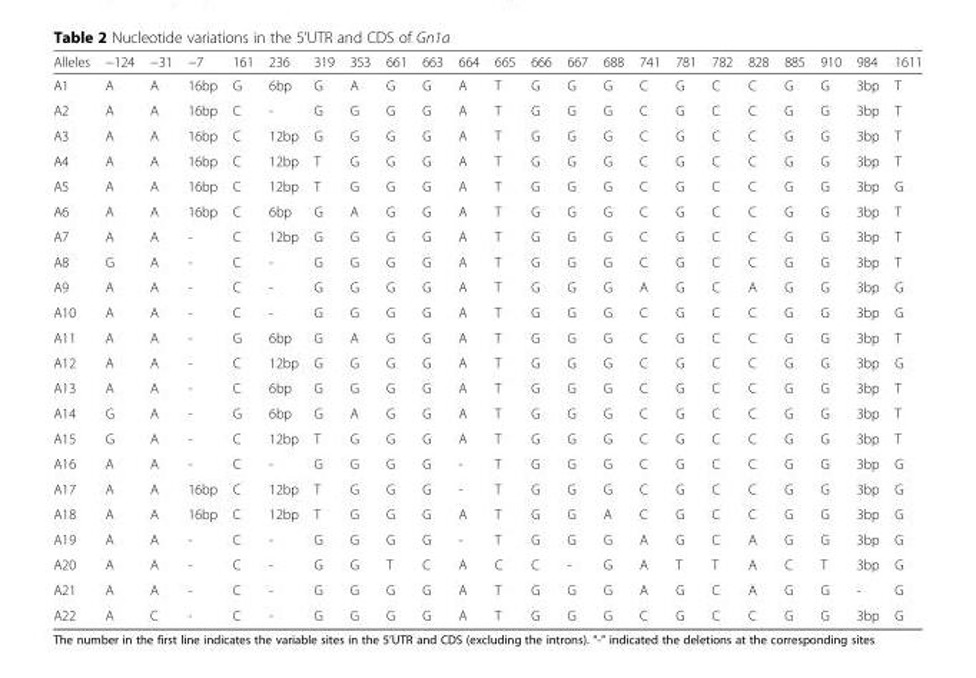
<table><thead><tr><td>Alleles</td><td>−124</td><td>−31</td><td>−7</td><td>161</td><td>236</td><td>319</td><td>353</td><td>661</td><td>663</td><td>664</td><td>665</td><td>666</td><td>667</td><td>688</td><td>741</td><td>781</td><td>782</td><td>828</td><td>885</td><td>910</td><td>984</td><td>1611</td></tr></thead><tbody><tr><td>A1</td><td>A</td><td>A</td><td>16bp</td><td>G</td><td>6bp</td><td>G</td><td>A</td><td>G</td><td>G</td><td>A</td><td>T</td><td>G</td><td>G</td><td>G</td><td>C</td><td>G</td><td>C</td><td>C</td><td>G</td><td>G</td><td>3bp</td><td>T</td></tr><tr><td>A2</td><td>A</td><td>A</td><td>16bp</td><td>C</td><td>-</td><td>G</td><td>G</td><td>G</td><td>G</td><td>A</td><td>T</td><td>G</td><td>G</td><td>G</td><td>C</td><td>G</td><td>C</td><td>C</td><td>G</td><td>G</td><td>3bp</td><td>T</td></tr><tr><td>A3</td><td>A</td><td>A</td><td>16bp</td><td>C</td><td>12bp</td><td>G</td><td>G</td><td>G</td><td>G</td><td>A</td><td>T</td><td>G</td><td>G</td><td>G</td><td>C</td><td>G</td><td>C</td><td>C</td><td>G</td><td>G</td><td>3bp</td><td>T</td></tr><tr><td>A4</td><td>A</td><td>A</td><td>16bp</td><td>C</td><td>12bp</td><td>T</td><td>G</td><td>G</td><td>G</td><td>A</td><td>T</td><td>G</td><td>G</td><td>G</td><td>C</td><td>G</td><td>C</td><td>C</td><td>G</td><td>G</td><td>3bp</td><td>T</td></tr><tr><td>A5</td><td>A</td><td>A</td><td>16bp</td><td>C</td><td>12bp</td><td>T</td><td>G</td><td>G</td><td>G</td><td>A</td><td>T</td><td>G</td><td>G</td><td>G</td><td>C</td><td>G</td><td>C</td><td>C</td><td>G</td><td>G</td><td>3bp</td><td>G</td></tr><tr><td>A6</td><td>A</td><td>A</td><td>16bp</td><td>C</td><td>6bp</td><td>G</td><td>A</td><td>G</td><td>G</td><td>A</td><td>T</td><td>G</td><td>G</td><td>G</td><td>C</td><td>G</td><td>C</td><td>C</td><td>G</td><td>G</td><td>3bp</td><td>T</td></tr><tr><td>A7</td><td>A</td><td>A</td><td>-</td><td>C</td><td>12bp</td><td>G</td><td>G</td><td>G</td><td>G</td><td>A</td><td>T</td><td>G</td><td>G</td><td>G</td><td>C</td><td>G</td><td>C</td><td>C</td><td>G</td><td>G</td><td>3bp</td><td>T</td></tr><tr><td>A8</td><td>G</td><td>A</td><td>-</td><td>C</td><td>-</td><td>G</td><td>G</td><td>G</td><td>G</td><td>A</td><td>T</td><td>G</td><td>G</td><td>G</td><td>C</td><td>G</td><td>C</td><td>C</td><td>G</td><td>G</td><td>3bp</td><td>T</td></tr><tr><td>A9</td><td>A</td><td>A</td><td>-</td><td>C</td><td>-</td><td>G</td><td>G</td><td>G</td><td>G</td><td>A</td><td>T</td><td>G</td><td>G</td><td>G</td><td>A</td><td>G</td><td>C</td><td>A</td><td>G</td><td>G</td><td>3bp</td><td>G</td></tr><tr><td>A10</td><td>A</td><td>A</td><td>-</td><td>C</td><td>-</td><td>G</td><td>G</td><td>G</td><td>G</td><td>A</td><td>T</td><td>G</td><td>G</td><td>G</td><td>C</td><td>G</td><td>C</td><td>C</td><td>G</td><td>G</td><td>3bp</td><td>G</td></tr><tr><td>A11</td><td>A</td><td>A</td><td>-</td><td>G</td><td>6bp</td><td>G</td><td>A</td><td>G</td><td>G</td><td>A</td><td>T</td><td>G</td><td>G</td><td>G</td><td>C</td><td>G</td><td>C</td><td>C</td><td>G</td><td>G</td><td>3bp</td><td>T</td></tr><tr><td>A12</td><td>A</td><td>A</td><td>-</td><td>C</td><td>12bp</td><td>G</td><td>G</td><td>G</td><td>G</td><td>A</td><td>T</td><td>G</td><td>G</td><td>G</td><td>C</td><td>G</td><td>C</td><td>C</td><td>G</td><td>G</td><td>3bp</td><td>G</td></tr><tr><td>A13</td><td>A</td><td>A</td><td>-</td><td>C</td><td>6bp</td><td>G</td><td>G</td><td>G</td><td>G</td><td>A</td><td>T</td><td>G</td><td>G</td><td>G</td><td>C</td><td>G</td><td>C</td><td>C</td><td>G</td><td>G</td><td>3bp</td><td>T</td></tr><tr><td>A14</td><td>G</td><td>A</td><td>-</td><td>G</td><td>6bp</td><td>G</td><td>A</td><td>G</td><td>G</td><td>A</td><td>T</td><td>G</td><td>G</td><td>G</td><td>C</td><td>G</td><td>C</td><td>C</td><td>G</td><td>G</td><td>3bp</td><td>T</td></tr><tr><td>A15</td><td>G</td><td>A</td><td>-</td><td>C</td><td>12bp</td><td>T</td><td>G</td><td>G</td><td>G</td><td>A</td><td>T</td><td>G</td><td>G</td><td>G</td><td>C</td><td>G</td><td>C</td><td>C</td><td>G</td><td>G</td><td>3bp</td><td>T</td></tr><tr><td>A16</td><td>A</td><td>A</td><td>-</td><td>C</td><td>-</td><td>G</td><td>G</td><td>G</td><td>G</td><td>-</td><td>T</td><td>G</td><td>G</td><td>G</td><td>C</td><td>G</td><td>C</td><td>C</td><td>G</td><td>G</td><td>3bp</td><td>G</td></tr><tr><td>A17</td><td>A</td><td>A</td><td>16bp</td><td>C</td><td>12bp</td><td>T</td><td>G</td><td>G</td><td>G</td><td>-</td><td>T</td><td>G</td><td>G</td><td>G</td><td>C</td><td>G</td><td>C</td><td>C</td><td>G</td><td>G</td><td>3bp</td><td>G</td></tr><tr><td>A18</td><td>A</td><td>A</td><td>16bp</td><td>C</td><td>12bp</td><td>T</td><td>G</td><td>G</td><td>G</td><td>A</td><td>T</td><td>G</td><td>G</td><td>A</td><td>C</td><td>G</td><td>C</td><td>C</td><td>G</td><td>G</td><td>3bp</td><td>G</td></tr><tr><td>A19</td><td>A</td><td>A</td><td>-</td><td>C</td><td>-</td><td>G</td><td>G</td><td>G</td><td>G</td><td>-</td><td>T</td><td>G</td><td>G</td><td>G</td><td>A</td><td>G</td><td>C</td><td>A</td><td>G</td><td>G</td><td>3bp</td><td>G</td></tr><tr><td>A20</td><td>A</td><td>A</td><td>-</td><td>C</td><td>-</td><td>G</td><td>G</td><td>T</td><td>C</td><td>A</td><td>C</td><td>C</td><td>-</td><td>G</td><td>A</td><td>T</td><td>T</td><td>A</td><td>C</td><td>T</td><td>3bp</td><td>G</td></tr><tr><td>A21</td><td>A</td><td>A</td><td>-</td><td>C</td><td>-</td><td>G</td><td>G</td><td>G</td><td>G</td><td>A</td><td>T</td><td>G</td><td>G</td><td>G</td><td>A</td><td>G</td><td>C</td><td>A</td><td>G</td><td>G</td><td>-</td><td>G</td></tr><tr><td>A22</td><td>A</td><td>C</td><td>-</td><td>C</td><td>-</td><td>G</td><td>G</td><td>G</td><td>G</td><td>A</td><td>T</td><td>G</td><td>G</td><td>G</td><td>C</td><td>G</td><td>C</td><td>C</td><td>G</td><td>G</td><td>3bp</td><td>G</td></tr></tbody></table>